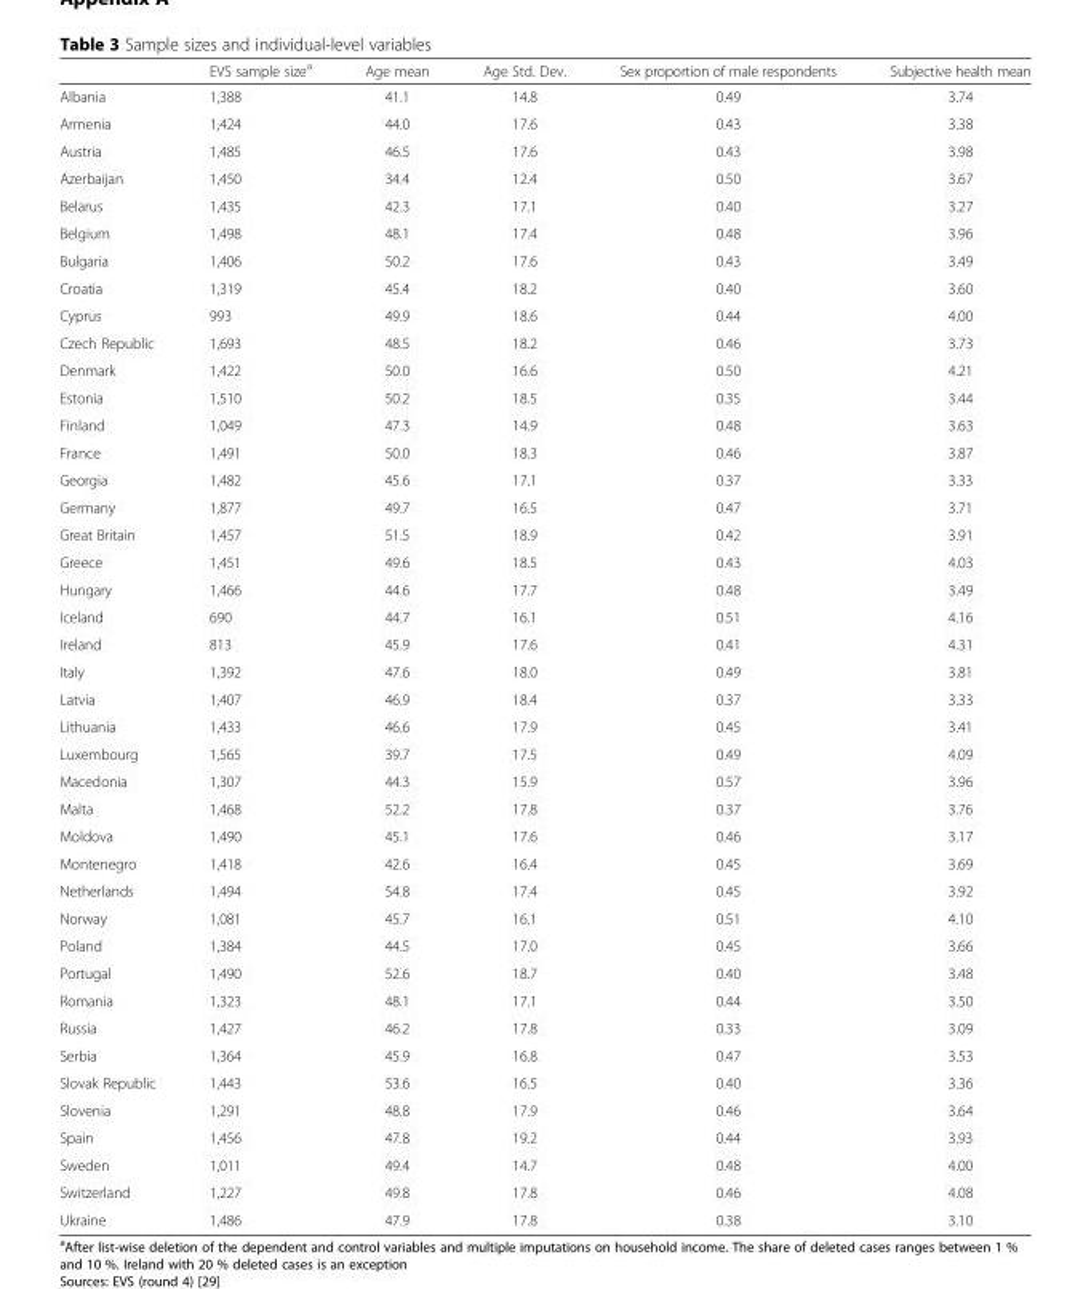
<table><thead><tr><td></td><td>EVS sample size<sup>a</sup></td><td>Age mean</td><td>Age Std. Dev.</td><td>Sex proportion of male respondents</td><td>Subjective health mean</td></tr></thead><tbody><tr><td>Albania</td><td>1,388</td><td>41.1</td><td>14.8</td><td>0.49</td><td>3.74</td></tr><tr><td>Armenia</td><td>1,424</td><td>44.0</td><td>17.6</td><td>0.43</td><td>3.38</td></tr><tr><td>Austria</td><td>1,485</td><td>46.5</td><td>17.6</td><td>0.43</td><td>3.98</td></tr><tr><td>Azerbaijan</td><td>1,450</td><td>34.4</td><td>12.4</td><td>0.50</td><td>3.67</td></tr><tr><td>Belarus</td><td>1,435</td><td>42.3</td><td>17.1</td><td>0.40</td><td>3.27</td></tr><tr><td>Belgium</td><td>1,498</td><td>48.1</td><td>17.4</td><td>0.48</td><td>3.96</td></tr><tr><td>Bulgaria</td><td>1,406</td><td>50.2</td><td>17.6</td><td>0.43</td><td>3.49</td></tr><tr><td>Croatia</td><td>1,319</td><td>45.4</td><td>18.2</td><td>0.40</td><td>3.60</td></tr><tr><td>Cyprus</td><td>993</td><td>49.9</td><td>18.6</td><td>0.44</td><td>4.00</td></tr><tr><td>Czech Republic</td><td>1,693</td><td>48.5</td><td>18.2</td><td>0.46</td><td>3.73</td></tr><tr><td>Denmark</td><td>1,422</td><td>50.0</td><td>16.6</td><td>0.50</td><td>4.21</td></tr><tr><td>Estonia</td><td>1,510</td><td>50.2</td><td>18.5</td><td>0.35</td><td>3.44</td></tr><tr><td>Finland</td><td>1,049</td><td>47.3</td><td>14.9</td><td>0.48</td><td>3.63</td></tr><tr><td>France</td><td>1,491</td><td>50.0</td><td>18.3</td><td>0.46</td><td>3.87</td></tr><tr><td>Georgia</td><td>1,482</td><td>45.6</td><td>17.1</td><td>0.37</td><td>3.33</td></tr><tr><td>Germany</td><td>1,877</td><td>49.7</td><td>16.5</td><td>0.47</td><td>3.71</td></tr><tr><td>Great Britain</td><td>1,457</td><td>51.5</td><td>18.9</td><td>0.42</td><td>3.91</td></tr><tr><td>Greece</td><td>1,451</td><td>49.6</td><td>18.5</td><td>0.43</td><td>4.03</td></tr><tr><td>Hungary</td><td>1,466</td><td>44.6</td><td>17.7</td><td>0.48</td><td>3.49</td></tr><tr><td>Iceland</td><td>690</td><td>44.7</td><td>16.1</td><td>0.51</td><td>4.16</td></tr><tr><td>Ireland</td><td>813</td><td>45.9</td><td>17.6</td><td>0.41</td><td>4.31</td></tr><tr><td>Italy</td><td>1,392</td><td>47.6</td><td>18.0</td><td>0.49</td><td>3.81</td></tr><tr><td>Latvia</td><td>1,407</td><td>46.9</td><td>18.4</td><td>0.37</td><td>3.33</td></tr><tr><td>Lithuania</td><td>1,433</td><td>46.6</td><td>17.9</td><td>0.45</td><td>3.41</td></tr><tr><td>Luxembourg</td><td>1,565</td><td>39.7</td><td>17.5</td><td>0.49</td><td>4.09</td></tr><tr><td>Macedonia</td><td>1,307</td><td>44.3</td><td>15.9</td><td>0.57</td><td>3.96</td></tr><tr><td>Malta</td><td>1,468</td><td>52.2</td><td>17.8</td><td>0.37</td><td>3.76</td></tr><tr><td>Moldova</td><td>1,490</td><td>45.1</td><td>17.6</td><td>0.46</td><td>3.17</td></tr><tr><td>Montenegro</td><td>1,418</td><td>42.6</td><td>16.4</td><td>0.45</td><td>3.69</td></tr><tr><td>Netherlands</td><td>1,494</td><td>54.8</td><td>17.4</td><td>0.45</td><td>3.92</td></tr><tr><td>Norway</td><td>1,081</td><td>45.7</td><td>16.1</td><td>0.51</td><td>4.10</td></tr><tr><td>Poland</td><td>1,384</td><td>44.5</td><td>17.0</td><td>0.45</td><td>3.66</td></tr><tr><td>Portugal</td><td>1,490</td><td>52.6</td><td>18.7</td><td>0.40</td><td>3.48</td></tr><tr><td>Romania</td><td>1,323</td><td>48.1</td><td>17.1</td><td>0.44</td><td>3.50</td></tr><tr><td>Russia</td><td>1,427</td><td>46.2</td><td>17.8</td><td>0.33</td><td>3.09</td></tr><tr><td>Serbia</td><td>1,364</td><td>45.9</td><td>16.8</td><td>0.47</td><td>3.53</td></tr><tr><td>Slovak Republic</td><td>1,443</td><td>53.6</td><td>16.5</td><td>0.40</td><td>3.36</td></tr><tr><td>Slovenia</td><td>1,291</td><td>48.8</td><td>17.9</td><td>0.46</td><td>3.64</td></tr><tr><td>Spain</td><td>1,456</td><td>47.8</td><td>19.2</td><td>0.44</td><td>3.93</td></tr><tr><td>Sweden</td><td>1,011</td><td>49.4</td><td>14.7</td><td>0.48</td><td>4.00</td></tr><tr><td>Switzerland</td><td>1,227</td><td>49.8</td><td>17.8</td><td>0.46</td><td>4.08</td></tr><tr><td>Ukraine</td><td>1,486</td><td>47.9</td><td>17.8</td><td>0.38</td><td>3.10</td></tr></tbody></table>